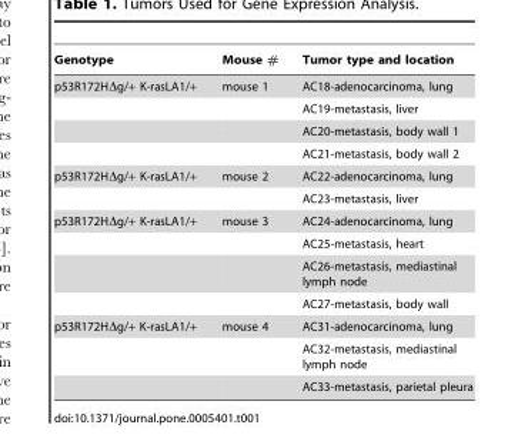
<table><thead><tr><td>Genotype</td><td>Mouse #</td><td>Tumor type and location</td></tr></thead><tbody><tr><td rowspan="4">p53R172HΔg/+ K-rasLA1/+</td><td>mouse 1</td><td>AC18-adenocarcinoma, lung</td></tr><tr><td></td><td>AC19-metastasis, liver</td></tr><tr><td></td><td>AC20-metastasis, body wall 1</td></tr><tr><td></td><td>AC21-metastasis, body wall 2</td></tr><tr><td rowspan="2">p53R172HΔg/+ K-rasLA1/+</td><td>mouse 2</td><td>AC22-adenocarcinoma, lung</td></tr><tr><td></td><td>AC23-metastasis, liver</td></tr><tr><td rowspan="4">p53R172HΔg/+ K-rasLA1/+</td><td>mouse 3</td><td>AC24-adenocarcinoma, lung</td></tr><tr><td></td><td>AC25-metastasis, heart</td></tr><tr><td></td><td>AC26-metastasis, mediastinal lymph node</td></tr><tr><td></td><td>AC27-metastasis, body wall</td></tr><tr><td rowspan="3">p53R172HΔg/+ K-rasLA1/+</td><td>mouse 4</td><td>AC31-adenocarcinoma, lung</td></tr><tr><td></td><td>AC32-metastasis, mediastinal lymph node</td></tr><tr><td></td><td>AC33-metastasis, parietal pleura</td></tr></tbody></table>